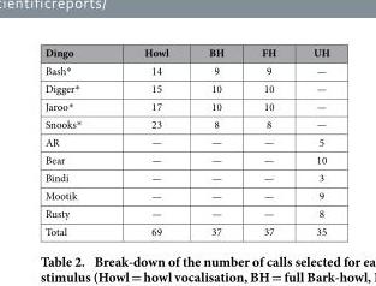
<table><thead><tr><td>Dingo</td><td>Howl</td><td>BH</td><td>FH</td><td>UH</td></tr></thead><tbody><tr><td>Bash*</td><td>14</td><td>9</td><td>9</td><td>—</td></tr><tr><td>Digger*</td><td>15</td><td>10</td><td>10</td><td>—</td></tr><tr><td>Jaroo*</td><td>17</td><td>10</td><td>10</td><td>—</td></tr><tr><td>Snooks*</td><td>23</td><td>8</td><td>8</td><td>—</td></tr><tr><td>AR</td><td>—</td><td>—</td><td>—</td><td>5</td></tr><tr><td>Bear</td><td>—</td><td>—</td><td>—</td><td>10</td></tr><tr><td>Bindi</td><td>—</td><td>—</td><td>—</td><td>3</td></tr><tr><td>Mootik</td><td>—</td><td>—</td><td>—</td><td>9</td></tr><tr><td>Rusty</td><td>—</td><td>—</td><td>—</td><td>8</td></tr><tr><td>Total</td><td>69</td><td>37</td><td>37</td><td>35</td></tr></tbody></table>